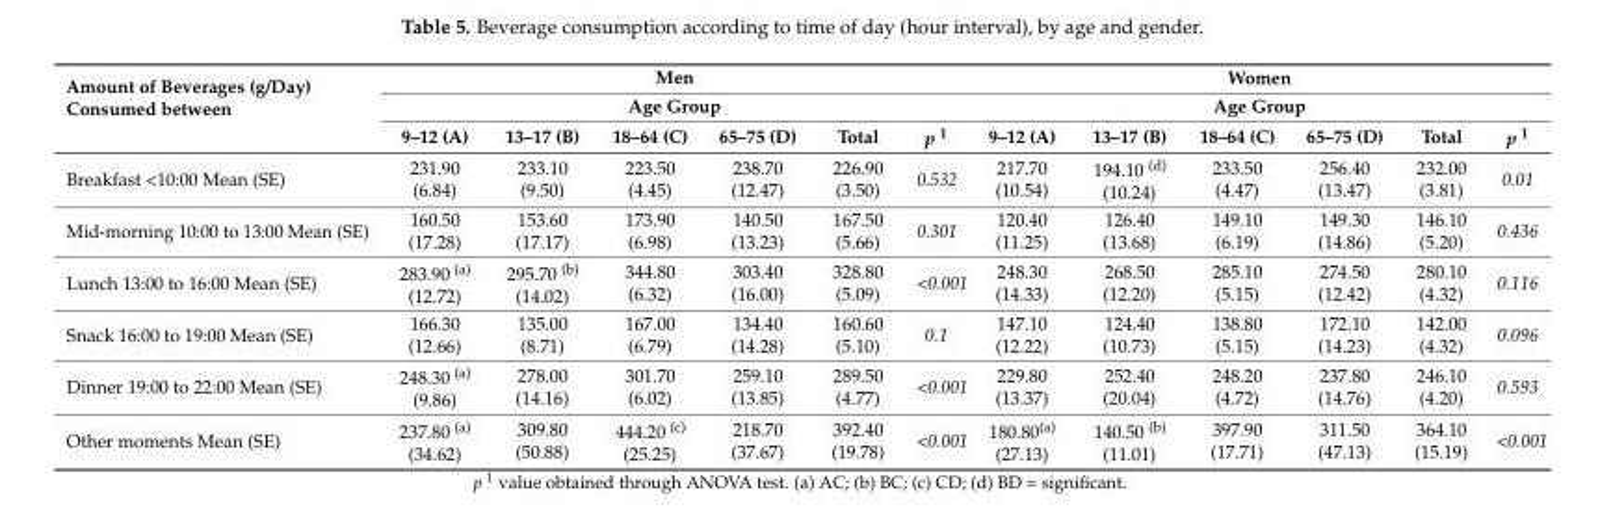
<table><thead><tr><td rowspan="3">Amount of Beverages (g/Day) Consumed between</td><td rowspan="2" colspan="6">Men Age Group</td><td rowspan="2" colspan="6">Women Age Group</td></tr><tr></tr><tr><td>9–12 (A)</td><td>13–17 (B)</td><td>18–64 (C)</td><td>65–75 (D)</td><td>Total</td><td>p <sup>1</sup></td><td>9–12 (A)</td><td>13–17 (B)</td><td>18–64 (C)</td><td>65–75 (D)</td><td>Total</td><td>p <sup>1</sup></td></tr></thead><tbody><tr><td>Breakfast &lt;10:00 Mean (SE)</td><td>231.90 (6.84)</td><td>233.10 (9.50)</td><td>223.50 (4.45)</td><td>238.70 (12.47)</td><td>226.90 (3.50)</td><td>0.532</td><td>217.70 (10.54)</td><td>194.10 <sup>(d)</sup> (10.24)</td><td>233.50 (4.47)</td><td>256.40 (13.47)</td><td>232.00 (3.81)</td><td>0.01</td></tr><tr><td>Mid-morning 10:00 to 13:00 Mean (SE)</td><td>160.50 (17.28)</td><td>153.60 (17.17)</td><td>173.90 (6.98)</td><td>140.50 (13.23)</td><td>167.50 (5.66)</td><td>0.301</td><td>120.40 (11.25)</td><td>126.40 (13.68)</td><td>149.10 (6.19)</td><td>149.30 (14.86)</td><td>146.10 (5.20)</td><td>0.436</td></tr><tr><td>Lunch 13:00 to 16:00 Mean (SE)</td><td>283.90 <sup>(a)</sup> (12.72)</td><td>295.70 <sup>(b)</sup> (14.02)</td><td>344.80 (6.32)</td><td>303.40 (16.00)</td><td>328.80 (5.09)</td><td>&lt;0.001</td><td>248.30 (14.33)</td><td>268.50 (12.20)</td><td>285.10 (5.15)</td><td>274.50 (12.42)</td><td>280.10 (4.32)</td><td>0.116</td></tr><tr><td>Snack 16:00 to 19:00 Mean (SE)</td><td>166.30 (12.66)</td><td>135.00 (8.71)</td><td>167.00 (6.79)</td><td>134.40 (14.28)</td><td>160.60 (5.10)</td><td>0.1</td><td>147.10 (12.22)</td><td>124.40 (10.73)</td><td>138.80 (5.15)</td><td>172.10 (14.23)</td><td>142.00 (4.32)</td><td>0.096</td></tr><tr><td>Dinner 19:00 to 22:00 Mean (SE)</td><td>248.30 <sup>(a)</sup> (9.86)</td><td>278.00 (14.16)</td><td>301.70 (6.02)</td><td>259.10 (13.85)</td><td>289.50 (4.77)</td><td>&lt;0.001</td><td>229.80 (13.37)</td><td>252.40 (20.04)</td><td>248.20 (4.72)</td><td>237.80 (14.76)</td><td>246.10 (4.20)</td><td>0.593</td></tr><tr><td>Other moments Mean (SE)</td><td>237.80 <sup>(a)</sup> (34.62)</td><td>309.80 (50.88)</td><td>444.20 <sup>(c)</sup> (25.25)</td><td>218.70 (37.67)</td><td>392.40 (19.78)</td><td>&lt;0.001</td><td>180.80<sup>(a)</sup> (27.13)</td><td>140.50 <sup>(b)</sup> (11.01)</td><td>397.90 (17.71)</td><td>311.50 (47.13)</td><td>364.10 (15.19)</td><td>&lt;0.001</td></tr></tbody></table>